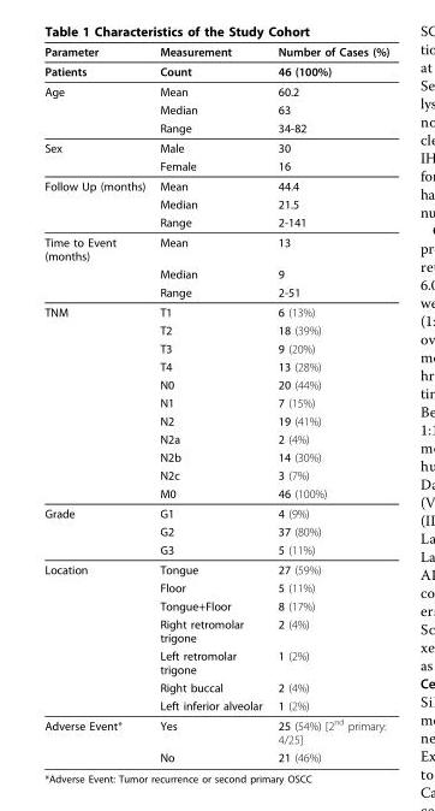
<table><thead><tr><td>Parameter</td><td>Measurement</td><td>Number of Cases (%)</td></tr></thead><tbody><tr><td>Patients</td><td>Count</td><td>46 (100%)</td></tr><tr><td rowspan="3">Age</td><td>Mean</td><td>60.2</td></tr><tr><td>Median</td><td>63</td></tr><tr><td>Range</td><td>34-82</td></tr><tr><td rowspan="2">Sex</td><td>Male</td><td>30</td></tr><tr><td>Female</td><td>16</td></tr><tr><td rowspan="3">Follow Up (months)</td><td>Mean</td><td>44.4</td></tr><tr><td>Median</td><td>21.5</td></tr><tr><td>Range</td><td>2-141</td></tr><tr><td rowspan="3">Time to Event (months)</td><td>Mean</td><td>13</td></tr><tr><td>Median</td><td>9</td></tr><tr><td>Range</td><td>2-51</td></tr><tr><td rowspan="11">TNM</td><td>T1</td><td>6 (13%)</td></tr><tr><td>T2</td><td>18 (39%)</td></tr><tr><td>T3</td><td>9 (20%)</td></tr><tr><td>T4</td><td>13 (28%)</td></tr><tr><td>N0</td><td>20 (44%)</td></tr><tr><td>N1</td><td>7 (15%)</td></tr><tr><td>N2</td><td>19 (41%)</td></tr><tr><td>N2a</td><td>2 (4%)</td></tr><tr><td>N2b</td><td>14 (30%)</td></tr><tr><td>N2c</td><td>3 (7%)</td></tr><tr><td>M0</td><td>46 (100%)</td></tr><tr><td rowspan="3">Grade</td><td>G1</td><td>4 (9%)</td></tr><tr><td>G2</td><td>37 (80%)</td></tr><tr><td>G3</td><td>5 (11%)</td></tr><tr><td rowspan="7">Location</td><td>Tongue</td><td>27 (59%)</td></tr><tr><td>Floor</td><td>5 (11%)</td></tr><tr><td>Tongue+Floor</td><td>8 (17%)</td></tr><tr><td>Right retromolar trigone</td><td>2 (4%)</td></tr><tr><td>Left retromolar trigone</td><td>1 (2%)</td></tr><tr><td>Right buccal</td><td>2 (4%)</td></tr><tr><td>Left inferior alveolar</td><td>1 (2%)</td></tr><tr><td rowspan="2">Adverse Event*</td><td>Yes</td><td>25 (54%) [2<sup>nd</sup> primary: 4/25]</td></tr><tr><td>No</td><td>21 (46%)</td></tr></tbody></table>